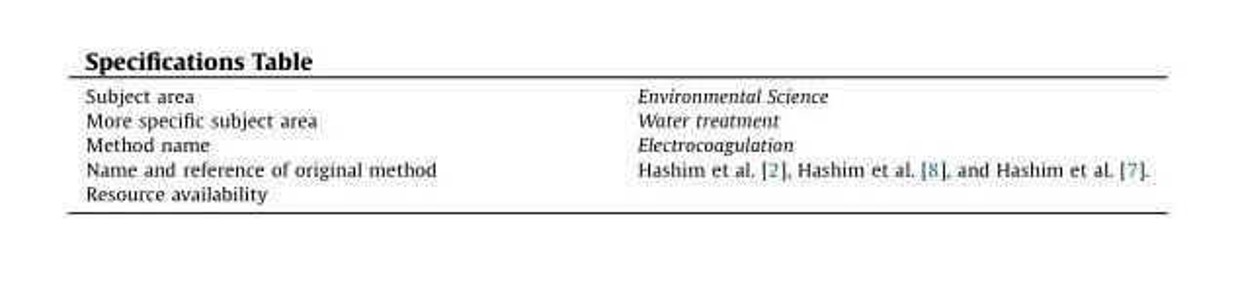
<table><tbody><tr><td>Subject area</td><td>Environmental Science</td></tr><tr><td>More specific subject area</td><td>Water treatment</td></tr><tr><td>Method name</td><td>Electrocoagulation</td></tr><tr><td>Name and reference of original method</td><td>Hashim et al. [2], Hashim et al. [8], and Hashim et al. [7].</td></tr><tr><td>Resource availability</td><td></td></tr></tbody></table>